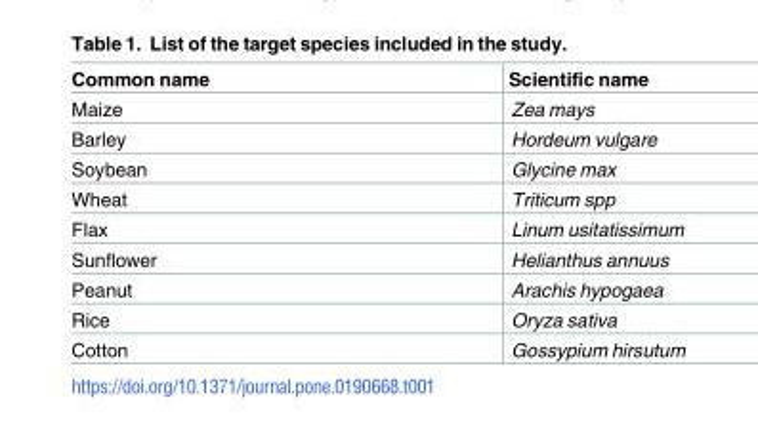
<table><thead><tr><td>Common name</td><td>Scientific name</td></tr></thead><tbody><tr><td>Maize</td><td>Zea mays</td></tr><tr><td>Barley</td><td>Hordeum vulgare</td></tr><tr><td>Soybean</td><td>Glycine max</td></tr><tr><td>Wheat</td><td>Triticum spp</td></tr><tr><td>Flax</td><td>Linum usitatissimum</td></tr><tr><td>Sunflower</td><td>Helianthus annuus</td></tr><tr><td>Peanut</td><td>Arachis hypogaea</td></tr><tr><td>Rice</td><td>Oryza sativa</td></tr><tr><td>Cotton</td><td>Gossypium hirsutum</td></tr></tbody></table>